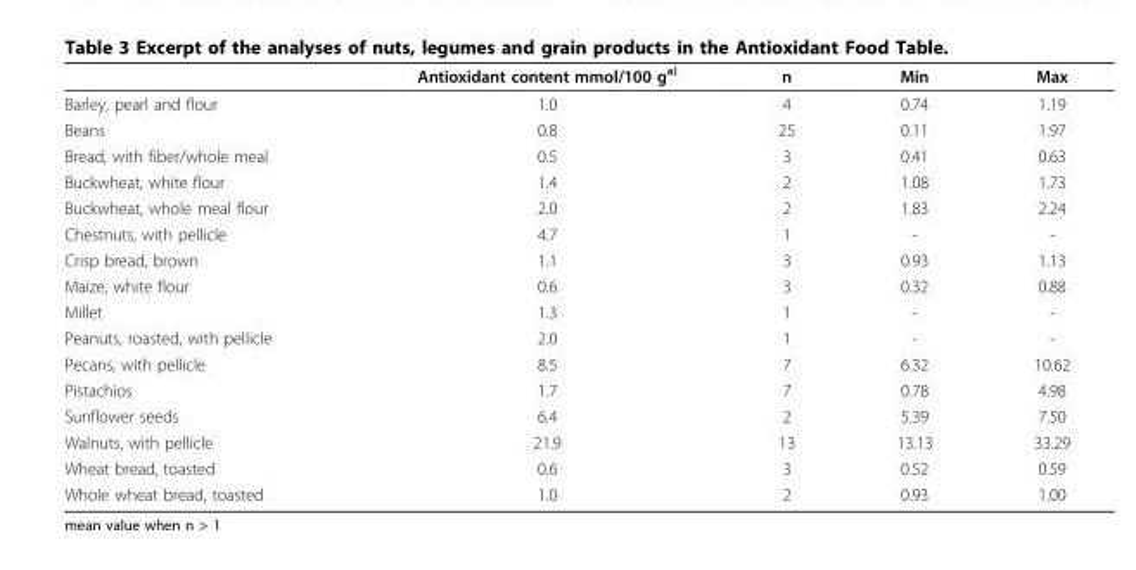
<table><thead><tr><td></td><td>Antioxidant content mmol/100 g<sup>a)</sup></td><td>n</td><td>Min</td><td>Max</td></tr></thead><tbody><tr><td>Barley, pearl and flour</td><td>1.0</td><td>4</td><td>0.74</td><td>1.19</td></tr><tr><td>Beans</td><td>0.8</td><td>25</td><td>0.11</td><td>1.97</td></tr><tr><td>Bread, with fiber/whole meal</td><td>0.5</td><td>3</td><td>0.41</td><td>0.63</td></tr><tr><td>Buckwheat, white flour</td><td>1.4</td><td>2</td><td>1.08</td><td>1.73</td></tr><tr><td>Buckwheat, whole meal flour</td><td>2.0</td><td>2</td><td>1.83</td><td>2.24</td></tr><tr><td>Chestnuts, with pellicle</td><td>4.7</td><td>1</td><td>-</td><td>-</td></tr><tr><td>Crisp bread, brown</td><td>1.1</td><td>3</td><td>0.93</td><td>1.13</td></tr><tr><td>Maize, white flour</td><td>0.6</td><td>3</td><td>0.32</td><td>0.88</td></tr><tr><td>Millet</td><td>1.3</td><td>1</td><td>-</td><td>-</td></tr><tr><td>Peanuts, roasted, with pellicle</td><td>2.0</td><td>1</td><td>-</td><td>-</td></tr><tr><td>Pecans, with pellicle</td><td>8.5</td><td>7</td><td>6.32</td><td>10.62</td></tr><tr><td>Pistachios</td><td>1.7</td><td>7</td><td>0.78</td><td>4.98</td></tr><tr><td>Sunflower seeds</td><td>6.4</td><td>2</td><td>5.39</td><td>7.50</td></tr><tr><td>Walnuts, with pellicle</td><td>21.9</td><td>13</td><td>13.13</td><td>33.29</td></tr><tr><td>Wheat bread, toasted</td><td>0.6</td><td>3</td><td>0.52</td><td>0.59</td></tr><tr><td>Whole wheat bread, toasted</td><td>1.0</td><td>2</td><td>0.93</td><td>1.00</td></tr></tbody></table>